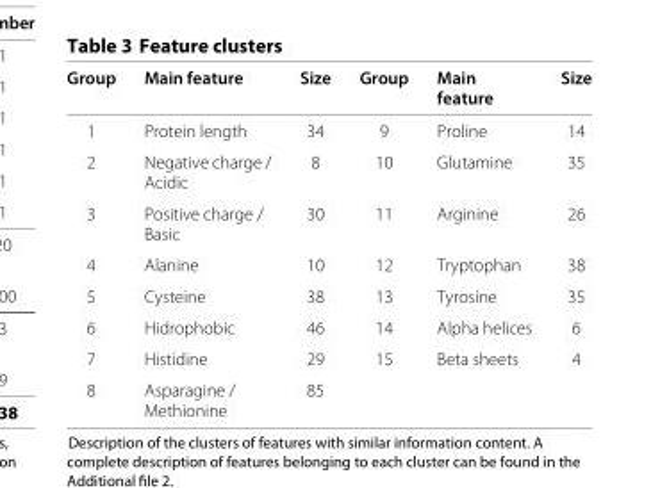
<table><thead><tr><td>Group</td><td>Main feature</td><td>Size</td><td>Group</td><td>Main feature</td><td>Size</td></tr></thead><tbody><tr><td>1</td><td>Protein length</td><td>34</td><td>9</td><td>Proline</td><td>14</td></tr><tr><td>2</td><td>Negative charge / Acidic</td><td>8</td><td>10</td><td>Glutamine</td><td>35</td></tr><tr><td>3</td><td>Positive charge / Basic</td><td>30</td><td>11</td><td>Arginine</td><td>26</td></tr><tr><td>4</td><td>Alanine</td><td>10</td><td>12</td><td>Tryptophan</td><td>38</td></tr><tr><td>5</td><td>Cysteine</td><td>38</td><td>13</td><td>Tyrosine</td><td>35</td></tr><tr><td>6</td><td>Hidrophobic</td><td>46</td><td>14</td><td>Alpha helices</td><td>6</td></tr><tr><td>7</td><td>Histidine</td><td>29</td><td>15</td><td>Beta sheets</td><td>4</td></tr><tr><td>8</td><td>Asparagine / Methionine</td><td>85</td><td></td><td></td><td></td></tr></tbody></table>